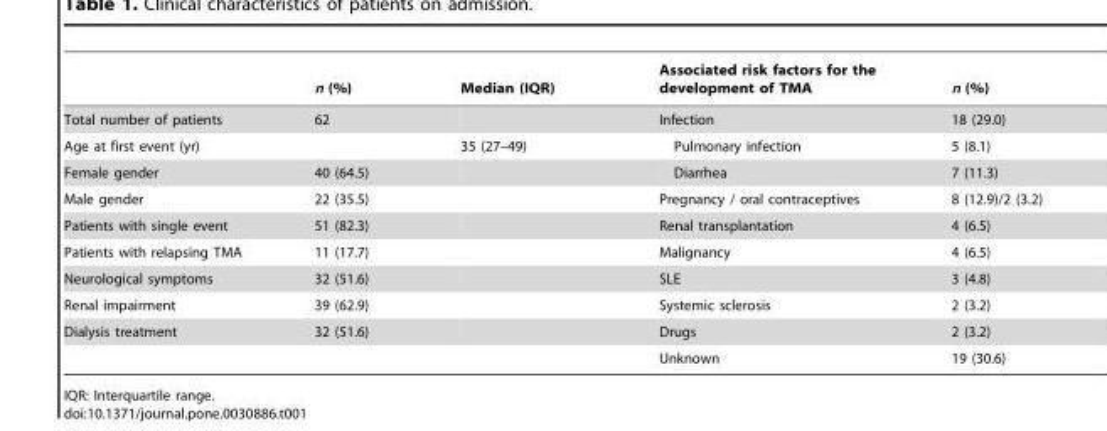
<table><thead><tr><td></td><td>n (%)</td><td>Median (IQR)</td><td>Associated risk factors for the development of TMA</td><td>n (%)</td></tr></thead><tbody><tr><td>Total number of patients</td><td>62</td><td></td><td>Infection</td><td>18 (29.0)</td></tr><tr><td>Age at first event (yr)</td><td></td><td>35 (27–49)</td><td>Pulmonary infection</td><td>5 (8.1)</td></tr><tr><td>Female gender</td><td>40 (64.5)</td><td></td><td>Diarrhea</td><td>7 (11.3)</td></tr><tr><td>Male gender</td><td>22 (35.5)</td><td></td><td>Pregnancy / oral contraceptives</td><td>8 (12.9)/2 (3.2)</td></tr><tr><td>Patients with single event</td><td>51 (82.3)</td><td></td><td>Renal transplantation</td><td>4 (6.5)</td></tr><tr><td>Patients with relapsing TMA</td><td>11 (17.7)</td><td></td><td>Malignancy</td><td>4 (6.5)</td></tr><tr><td>Neurological symptoms</td><td>32 (51.6)</td><td></td><td>SLE</td><td>3 (4.8)</td></tr><tr><td>Renal impairment</td><td>39 (62.9)</td><td></td><td>Systemic sclerosis</td><td>2 (3.2)</td></tr><tr><td rowspan="2">Dialysis treatment</td><td>32 (51.6)</td><td></td><td>Drugs</td><td>2 (3.2)</td></tr><tr><td></td><td></td><td>Unknown</td><td>19 (30.6)</td></tr></tbody></table>